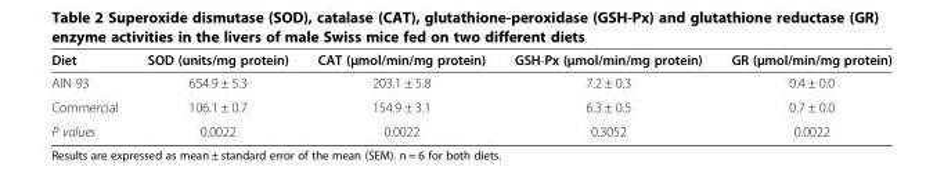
<table><thead><tr><td>Diet</td><td>SOD (units/mg protein)</td><td>CAT (μmol/min/mg protein)</td><td>GSH-Px (μmol/min/mg protein)</td><td>GR (μmol/min/mg protein)</td></tr></thead><tbody><tr><td>AIN 93</td><td>654.9 ± 5.3</td><td>203.1 ± 5.8</td><td>7.2 ± 0.3</td><td>0.4 ± 0.0</td></tr><tr><td>Commercial</td><td>106.1 ± 0.7</td><td>154.9 ± 3.1</td><td>6.3 ± 0.5</td><td>0.7 ± 0.0</td></tr><tr><td>P values</td><td>0.0022</td><td>0.0022</td><td>0.3052</td><td>0.0022</td></tr></tbody></table>